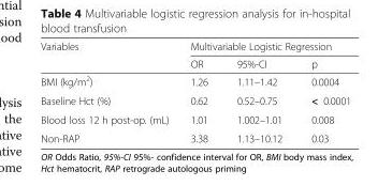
<table><thead><tr><td rowspan="2">Variables</td><td colspan="3">Multivariable Logistic Regression</td></tr><tr><td>OR</td><td>95%-CI</td><td>p</td></tr></thead><tbody><tr><td>BMI (kg/m<sup>2</sup>)</td><td>1.26</td><td>1.11–1.42</td><td>0.0004</td></tr><tr><td>Baseline Hct (%)</td><td>0.62</td><td>0.52–0.75</td><td>&lt; 0.0001</td></tr><tr><td>Blood loss 12 h post-op. (mL)</td><td>1.01</td><td>1.002–1.01</td><td>0.008</td></tr><tr><td>Non-RAP</td><td>3.38</td><td>1.13–10.12</td><td>0.03</td></tr></tbody></table>